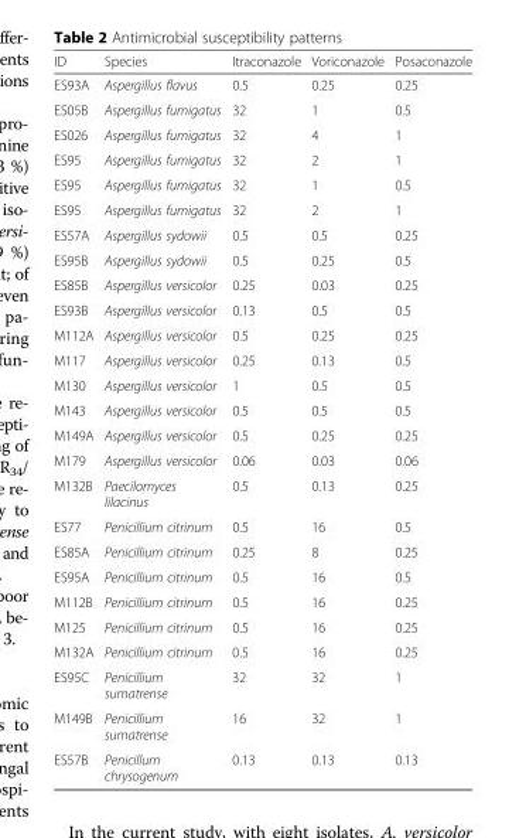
<table><thead><tr><td>ID</td><td>Species</td><td>Itraconazole</td><td>Voriconazole</td><td>Posaconazole</td></tr></thead><tbody><tr><td>ES93A</td><td>Aspergillus flavus</td><td>0.5</td><td>0.25</td><td>0.25</td></tr><tr><td>ES05B</td><td>Aspergillus fumigatus</td><td>32</td><td>1</td><td>0.5</td></tr><tr><td>ES026</td><td>Aspergillus fumigatus</td><td>32</td><td>4</td><td>1</td></tr><tr><td>ES95</td><td>Aspergillus fumigatus</td><td>32</td><td>2</td><td>1</td></tr><tr><td>ES95</td><td>Aspergillus fumigatus</td><td>32</td><td>1</td><td>0.5</td></tr><tr><td>ES95</td><td>Aspergillus fumigatus</td><td>32</td><td>2</td><td>1</td></tr><tr><td>ES57A</td><td>Aspergillus sydowii</td><td>0.5</td><td>0.5</td><td>0.25</td></tr><tr><td>ES95B</td><td>Aspergillus sydowii</td><td>0.5</td><td>0.25</td><td>0.5</td></tr><tr><td>ES85B</td><td>Aspergillus versicolor</td><td>0.25</td><td>0.03</td><td>0.25</td></tr><tr><td>ES93B</td><td>Aspergillus versicolor</td><td>0.13</td><td>0.5</td><td>0.5</td></tr><tr><td>M112A</td><td>Aspergillus versicolor</td><td>0.5</td><td>0.25</td><td>0.25</td></tr><tr><td>M117</td><td>Aspergillus versicolor</td><td>0.25</td><td>0.13</td><td>0.5</td></tr><tr><td>M130</td><td>Aspergillus versicolor</td><td>1</td><td>0.5</td><td>0.5</td></tr><tr><td>M143</td><td>Aspergillus versicolor</td><td>0.5</td><td>0.5</td><td>0.5</td></tr><tr><td>M149A</td><td>Aspergillus versicolor</td><td>0.5</td><td>0.25</td><td>0.25</td></tr><tr><td>M179</td><td>Aspergillus versicolor</td><td>0.06</td><td>0.03</td><td>0.06</td></tr><tr><td>M132B</td><td>Paecilomyces lilacinus</td><td>0.5</td><td>0.13</td><td>0.25</td></tr><tr><td>ES77</td><td>Penicillium citrinum</td><td>0.5</td><td>16</td><td>0.5</td></tr><tr><td>ES85A</td><td>Penicillium citrinum</td><td>0.25</td><td>8</td><td>0.25</td></tr><tr><td>ES95A</td><td>Penicillium citrinum</td><td>0.5</td><td>16</td><td>0.5</td></tr><tr><td>M112B</td><td>Penicillium citrinum</td><td>0.5</td><td>16</td><td>0.25</td></tr><tr><td>M125</td><td>Penicillium citrinum</td><td>0.5</td><td>16</td><td>0.25</td></tr><tr><td>M132A</td><td>Penicillium citrinum</td><td>0.5</td><td>16</td><td>0.25</td></tr><tr><td>ES95C</td><td>Penicillium sumatrense</td><td>32</td><td>32</td><td>1</td></tr><tr><td>M149B</td><td>Penicillium sumatrense</td><td>16</td><td>32</td><td>1</td></tr><tr><td>ES57B</td><td>Penicillum chrysogenum</td><td>0.13</td><td>0.13</td><td>0.13</td></tr></tbody></table>